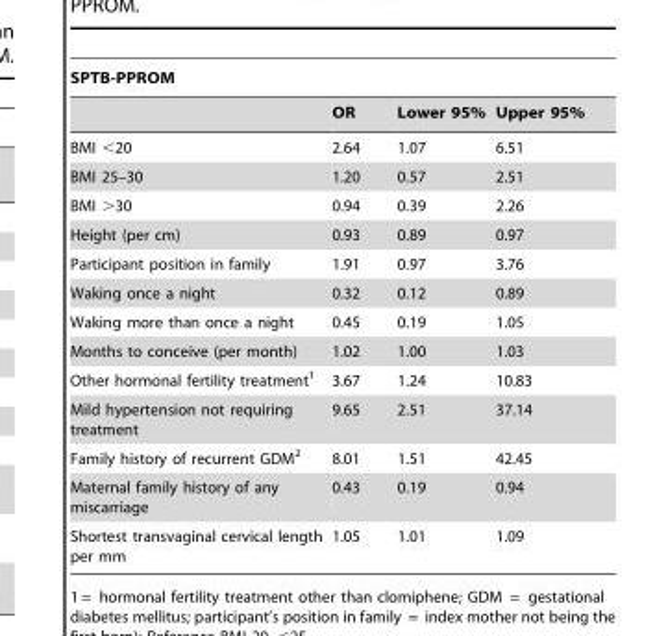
<table><thead><tr><td colspan="4">SPTB-PPROM</td></tr><tr><td></td><td>OR</td><td>Lower 95%</td><td>Upper 95%</td></tr></thead><tbody><tr><td>BMI &lt;20</td><td>2.64</td><td>1.07</td><td>6.51</td></tr><tr><td>BMI 25–30</td><td>1.20</td><td>0.57</td><td>2.51</td></tr><tr><td>BMI &gt;30</td><td>0.94</td><td>0.39</td><td>2.26</td></tr><tr><td>Height (per cm)</td><td>0.93</td><td>0.89</td><td>0.97</td></tr><tr><td>Participant position in family</td><td>1.91</td><td>0.97</td><td>3.76</td></tr><tr><td>Waking once a night</td><td>0.32</td><td>0.12</td><td>0.89</td></tr><tr><td>Waking more than once a night</td><td>0.45</td><td>0.19</td><td>1.05</td></tr><tr><td>Months to conceive (per month)</td><td>1.02</td><td>1.00</td><td>1.03</td></tr><tr><td>Other hormonal fertility treatment<sup>1</sup></td><td>3.67</td><td>1.24</td><td>10.83</td></tr><tr><td>Mild hypertension not requiring treatment</td><td>9.65</td><td>2.51</td><td>37.14</td></tr><tr><td>Family history of recurrent GDM<sup>2</sup></td><td>8.01</td><td>1.51</td><td>42.45</td></tr><tr><td>Maternal family history of any miscarriage</td><td>0.43</td><td>0.19</td><td>0.94</td></tr><tr><td>Shortest transvaginal cervical length per mm</td><td>1.05</td><td>1.01</td><td>1.09</td></tr></tbody></table>